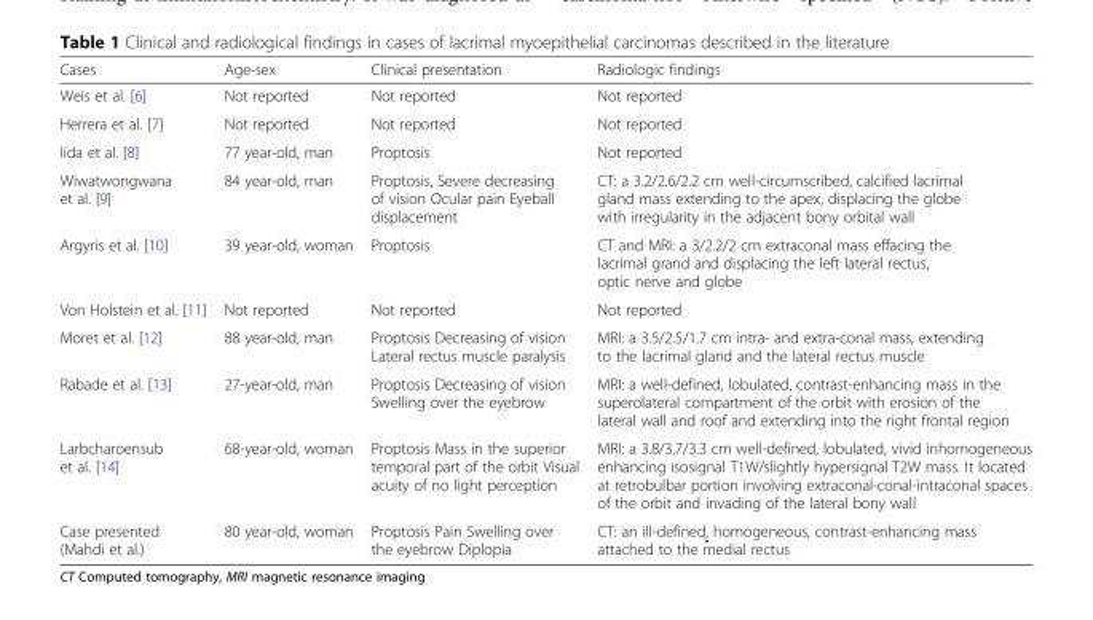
<table><thead><tr><td>Cases</td><td>Age-sex</td><td>Clinical presentation</td><td>Radiologic findings</td></tr></thead><tbody><tr><td>Weis et al. [6]</td><td>Not reported</td><td>Not reported</td><td>Not reported</td></tr><tr><td>Herrera et al. [7]</td><td>Not reported</td><td>Not reported</td><td>Not reported</td></tr><tr><td>Iida et al. [8]</td><td>77 year-old, man</td><td>Proptosis</td><td>Not reported</td></tr><tr><td>Wiwatwongwana et al. [9]</td><td>84 year-old, man</td><td>Proptosis, Severe decreasing of vision Ocular pain Eyeball displacement</td><td>CT: a 3.2/2.6/2.2 cm well-circumscribed, calcified lacrimal gland mass extending to the apex, displacing the globe with irregularity in the adjacent bony orbital wall</td></tr><tr><td>Argyris et al. [10]</td><td>39 year-old, woman</td><td>Proptosis</td><td>CT and MRI: a 3/2.2/2 cm extraconal mass effacing the lacrimal grand and displacing the left lateral rectus, optic nerve and globe</td></tr><tr><td>Von Holstein et al. [11]</td><td>Not reported</td><td>Not reported</td><td>Not reported</td></tr><tr><td>Moret et al. [12]</td><td>88 year-old, man</td><td>Proptosis Decreasing of vision Lateral rectus muscle paralysis</td><td>MRI: a 3.5/2.5/1.7 cm intra- and extra-conal mass, extending to the lacrimal gland and the lateral rectus muscle</td></tr><tr><td>Rabade et al. [13]</td><td>27-year-old, man</td><td>Proptosis Decreasing of vision Swelling over the eyebrow</td><td>MRI: a well-defined, lobulated, contrast-enhancing mass in the superolateral compartment of the orbit with erosion of the lateral wall and roof and extending into the right frontal region</td></tr><tr><td>Larbcharoensub et al. [14]</td><td>68-year-old, woman</td><td>Proptosis Mass in the superior temporal part of the orbit Visual acuity of no light perception</td><td>MRI: a 3.8/3.7/3.3 cm well-defined, lobulated, vivid inhomogeneous enhancing isosignal T1W/slightly hypersignal T2W mass. It located at retrobulbar portion involving extraconal-conal-intraconal spaces of the orbit and invading of the lateral bony wall</td></tr><tr><td>Case presented (Mahdi et al.)</td><td>80 year-old, woman</td><td>Proptosis Pain Swelling over the eyebrow Diplopia</td><td>CT: an ill-defined, homogeneous, contrast-enhancing mass attached to the medial rectus</td></tr></tbody></table>